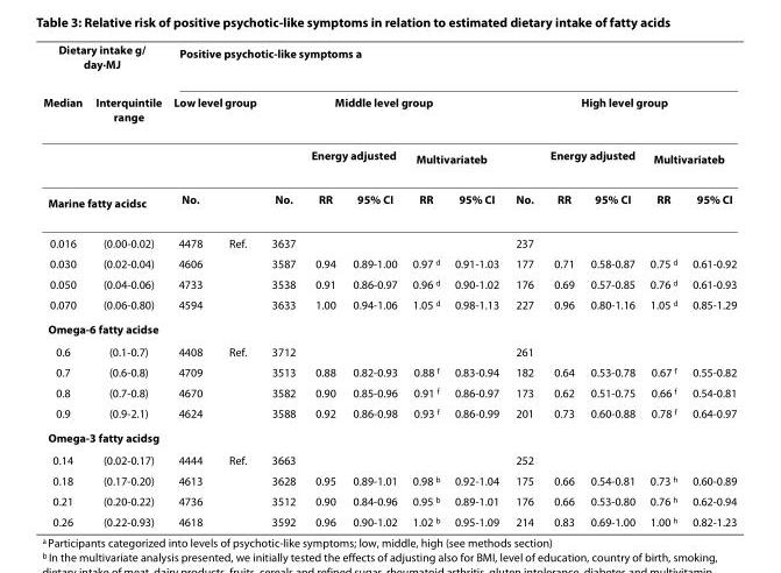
<table><thead><tr><td colspan="2">Dietary intake g/ day·MJ</td><td colspan="12">Positive psychotic-like symptoms <sup>a</sup></td></tr><tr><td rowspan="2">Median</td><td rowspan="2">Interquintile range</td><td colspan="2">Low level group</td><td colspan="5">Middle level group</td><td colspan="5">High level group</td></tr><tr><td rowspan="2">No.</td><td rowspan="2"></td><td rowspan="2">No.</td><td colspan="2">Energy adjusted</td><td colspan="2">Multivariate<sup>b</sup></td><td rowspan="2">No.</td><td colspan="2">Energy adjusted</td><td colspan="2">Multivariate<sup>b</sup></td></tr><tr><td colspan="2">Marine fatty acids<sup>c</sup></td><td>RR</td><td>95% CI</td><td>RR</td><td>95% CI</td><td>RR</td><td>95% CI</td><td>RR</td><td>95% CI</td></tr></thead><tbody><tr><td>0.016</td><td>(0.00-0.02)</td><td>4478</td><td>Ref.</td><td>3637</td><td></td><td></td><td></td><td></td><td>237</td><td></td><td></td><td></td><td></td></tr><tr><td>0.030</td><td>(0.02-0.04)</td><td>4606</td><td></td><td>3587</td><td>0.94</td><td>0.89-1.00</td><td>0.97 <sup>d</sup></td><td>0.91-1.03</td><td>177</td><td>0.71</td><td>0.58-0.87</td><td>0.75 <sup>d</sup></td><td>0.61-0.92</td></tr><tr><td>0.050</td><td>(0.04-0.06)</td><td>4733</td><td></td><td>3538</td><td>0.91</td><td>0.86-0.97</td><td>0.96 <sup>d</sup></td><td>0.90-1.02</td><td>176</td><td>0.69</td><td>0.57-0.85</td><td>0.76 <sup>d</sup></td><td>0.61-0.93</td></tr><tr><td>0.070</td><td>(0.06-0.80)</td><td>4594</td><td></td><td>3633</td><td>1.00</td><td>0.94-1.06</td><td>1.05 <sup>d</sup></td><td>0.98-1.13</td><td>227</td><td>0.96</td><td>0.80-1.16</td><td>1.05 <sup>d</sup></td><td>0.85-1.29</td></tr><tr><td colspan="14">Omega-6 fatty acids<sup>e</sup></td></tr><tr><td>0.6</td><td>(0.1-0.7)</td><td>4408</td><td>Ref.</td><td>3712</td><td></td><td></td><td></td><td></td><td>261</td><td></td><td></td><td></td><td></td></tr><tr><td>0.7</td><td>(0.6-0.8)</td><td>4709</td><td></td><td>3513</td><td>0.88</td><td>0.82-0.93</td><td>0.88 <sup>f</sup></td><td>0.83-0.94</td><td>182</td><td>0.64</td><td>0.53-0.78</td><td>0.67 <sup>f</sup></td><td>0.55-0.82</td></tr><tr><td>0.8</td><td>(0.7-0.8)</td><td>4670</td><td></td><td>3582</td><td>0.90</td><td>0.85-0.96</td><td>0.91 <sup>f</sup></td><td>0.86-0.97</td><td>173</td><td>0.62</td><td>0.51-0.75</td><td>0.66 <sup>f</sup></td><td>0.54-0.81</td></tr><tr><td>0.9</td><td>(0.9-2.1)</td><td>4624</td><td></td><td>3588</td><td>0.92</td><td>0.86-0.98</td><td>0.93 <sup>f</sup></td><td>0.86-0.99</td><td>201</td><td>0.73</td><td>0.60-0.88</td><td>0.78 <sup>f</sup></td><td>0.64-0.97</td></tr><tr><td colspan="14">Omega-3 fatty acids<sup>g</sup></td></tr><tr><td>0.14</td><td>(0.02-0.17)</td><td>4444</td><td>Ref.</td><td>3663</td><td></td><td></td><td></td><td></td><td>252</td><td></td><td></td><td></td><td></td></tr><tr><td>0.18</td><td>(0.17-0.20)</td><td>4613</td><td></td><td>3628</td><td>0.95</td><td>0.89-1.01</td><td>0.98 <sup>b</sup></td><td>0.92-1.04</td><td>175</td><td>0.66</td><td>0.54-0.81</td><td>0.73 <sup>h</sup></td><td>0.60-0.89</td></tr><tr><td>0.21</td><td>(0.20-0.22)</td><td>4736</td><td></td><td>3512</td><td>0.90</td><td>0.84-0.96</td><td>0.95 <sup>b</sup></td><td>0.89-1.01</td><td>176</td><td>0.66</td><td>0.53-0.80</td><td>0.76 <sup>h</sup></td><td>0.62-0.94</td></tr><tr><td>0.26</td><td>(0.22-0.93)</td><td>4618</td><td></td><td>3592</td><td>0.96</td><td>0.90-1.02</td><td>1.02 <sup>b</sup></td><td>0.95-1.09</td><td>214</td><td>0.83</td><td>0.69-1.00</td><td>1.00 <sup>h</sup></td><td>0.82-1.23</td></tr></tbody></table>